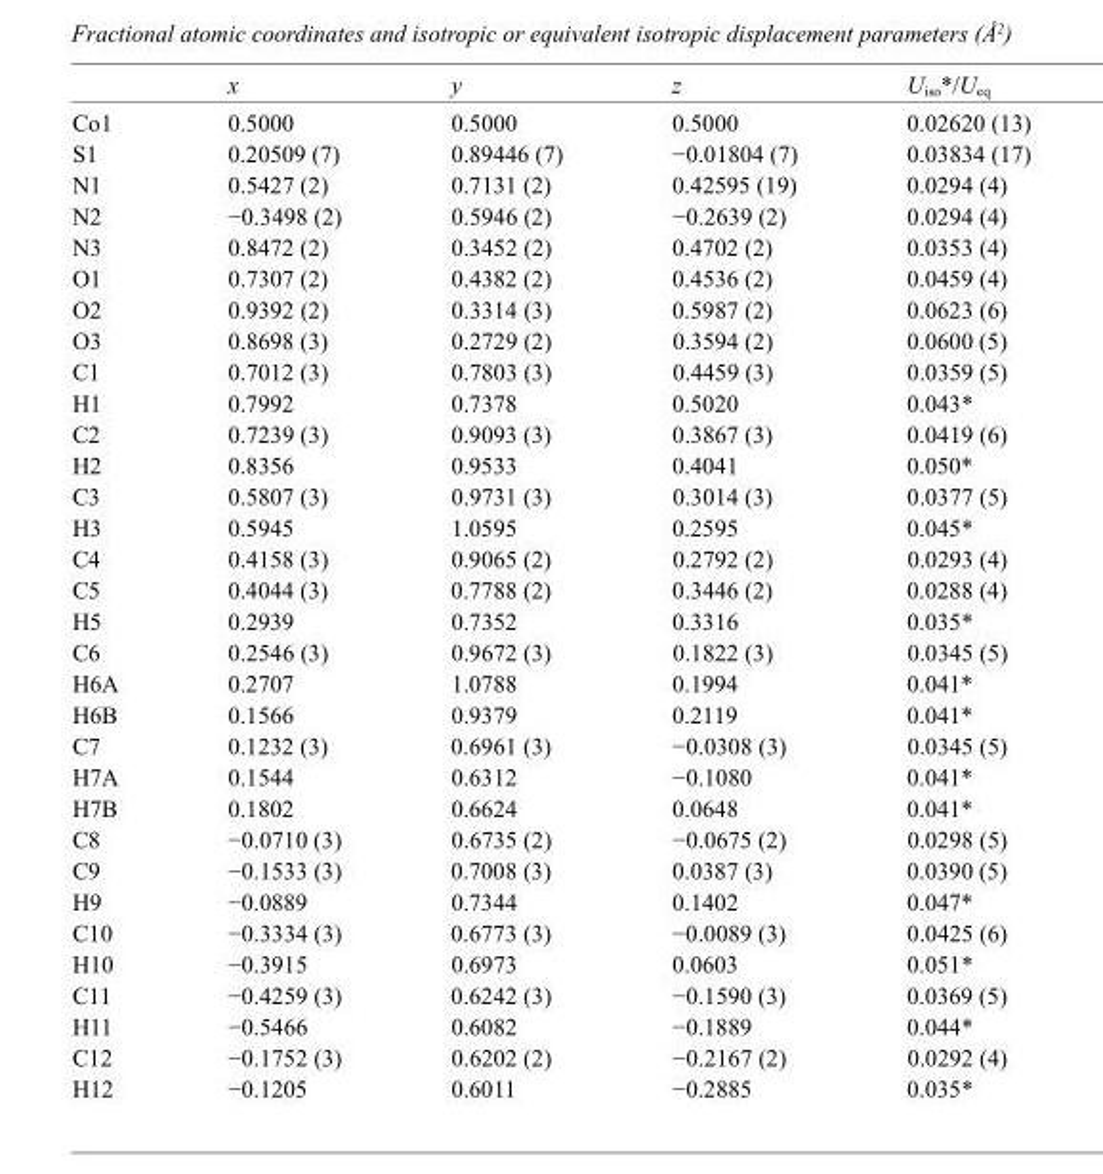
<table><thead><tr><td></td><td>x</td><td>y</td><td>z</td><td>U<sub>iso</sub>*/U<sub>eq</sub></td></tr></thead><tbody><tr><td>Co1</td><td>0.5000</td><td>0.5000</td><td>0.5000</td><td>0.02620 (13)</td></tr><tr><td>S1</td><td>0.20509 (7)</td><td>0.89446 (7)</td><td>−0.01804 (7)</td><td>0.03834 (17)</td></tr><tr><td>N1</td><td>0.5427 (2)</td><td>0.7131 (2)</td><td>0.42595 (19)</td><td>0.0294 (4)</td></tr><tr><td>N2</td><td>−0.3498 (2)</td><td>0.5946 (2)</td><td>−0.2639 (2)</td><td>0.0294 (4)</td></tr><tr><td>N3</td><td>0.8472 (2)</td><td>0.3452 (2)</td><td>0.4702 (2)</td><td>0.0353 (4)</td></tr><tr><td>O1</td><td>0.7307 (2)</td><td>0.4382 (2)</td><td>0.4536 (2)</td><td>0.0459 (4)</td></tr><tr><td>O2</td><td>0.9392 (2)</td><td>0.3314 (3)</td><td>0.5987 (2)</td><td>0.0623 (6)</td></tr><tr><td>O3</td><td>0.8698 (3)</td><td>0.2729 (2)</td><td>0.3594 (2)</td><td>0.0600 (5)</td></tr><tr><td>C1</td><td>0.7012 (3)</td><td>0.7803 (3)</td><td>0.4459 (3)</td><td>0.0359 (5)</td></tr><tr><td>H1</td><td>0.7992</td><td>0.7378</td><td>0.5020</td><td>0.043*</td></tr><tr><td>C2</td><td>0.7239 (3)</td><td>0.9093 (3)</td><td>0.3867 (3)</td><td>0.0419 (6)</td></tr><tr><td>H2</td><td>0.8356</td><td>0.9533</td><td>0.4041</td><td>0.050*</td></tr><tr><td>C3</td><td>0.5807 (3)</td><td>0.9731 (3)</td><td>0.3014 (3)</td><td>0.0377 (5)</td></tr><tr><td>H3</td><td>0.5945</td><td>1.0595</td><td>0.2595</td><td>0.045*</td></tr><tr><td>C4</td><td>0.4158 (3)</td><td>0.9065 (2)</td><td>0.2792 (2)</td><td>0.0293 (4)</td></tr><tr><td>C5</td><td>0.4044 (3)</td><td>0.7788 (2)</td><td>0.3446 (2)</td><td>0.0288 (4)</td></tr><tr><td>H5</td><td>0.2939</td><td>0.7352</td><td>0.3316</td><td>0.035*</td></tr><tr><td>C6</td><td>0.2546 (3)</td><td>0.9672 (3)</td><td>0.1822 (3)</td><td>0.0345 (5)</td></tr><tr><td>H6A</td><td>0.2707</td><td>1.0788</td><td>0.1994</td><td>0.041*</td></tr><tr><td>H6B</td><td>0.1566</td><td>0.9379</td><td>0.2119</td><td>0.041*</td></tr><tr><td>C7</td><td>0.1232 (3)</td><td>0.6961 (3)</td><td>−0.0308 (3)</td><td>0.0345 (5)</td></tr><tr><td>H7A</td><td>0.1544</td><td>0.6312</td><td>−0.1080</td><td>0.041*</td></tr><tr><td>H7B</td><td>0.1802</td><td>0.6624</td><td>0.0648</td><td>0.041*</td></tr><tr><td>C8</td><td>−0.0710 (3)</td><td>0.6735 (2)</td><td>−0.0675 (2)</td><td>0.0298 (5)</td></tr><tr><td>C9</td><td>−0.1533 (3)</td><td>0.7008 (3)</td><td>0.0387 (3)</td><td>0.0390 (5)</td></tr><tr><td>H9</td><td>−0.0889</td><td>0.7344</td><td>0.1402</td><td>0.047*</td></tr><tr><td>C10</td><td>−0.3334 (3)</td><td>0.6773 (3)</td><td>−0.0089 (3)</td><td>0.0425 (6)</td></tr><tr><td>H10</td><td>−0.3915</td><td>0.6973</td><td>0.0603</td><td>0.051*</td></tr><tr><td>C11</td><td>−0.4259 (3)</td><td>0.6242 (3)</td><td>−0.1590 (3)</td><td>0.0369 (5)</td></tr><tr><td>H11</td><td>−0.5466</td><td>0.6082</td><td>−0.1889</td><td>0.044*</td></tr><tr><td>C12</td><td>−0.1752 (3)</td><td>0.6202 (2)</td><td>−0.2167 (2)</td><td>0.0292 (4)</td></tr><tr><td>H12</td><td>−0.1205</td><td>0.6011</td><td>−0.2885</td><td>0.035*</td></tr></tbody></table>